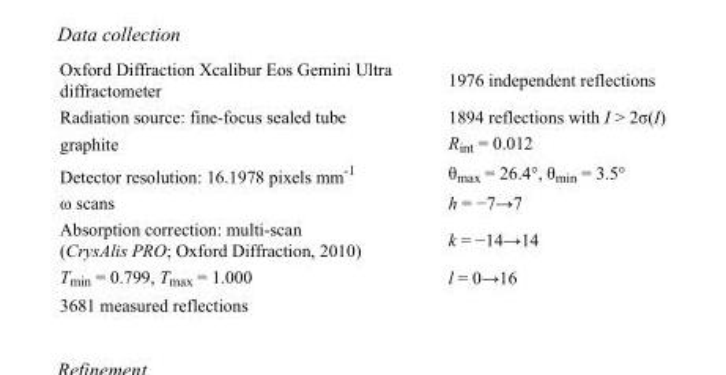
<table><tbody><tr><td>Oxford Diffraction Xcalibur Eos Gemini Ultra diffractometer</td><td>1976 independent reflections</td></tr><tr><td>Radiation source: fine-focus sealed tube</td><td>1894 reflections with I &gt; 2σ(I)</td></tr><tr><td>graphite</td><td>R<sub>int</sub> = 0.012</td></tr><tr><td>Detector resolution: 16.1978 pixels mm<sup>-1</sup></td><td>θ<sub>max</sub> = 26.4°, θ<sub>min</sub> = 3.5°</td></tr><tr><td>ω scans</td><td>h = −7→7</td></tr><tr><td>Absorption correction: multi-scan (CrysAlis PRO; Oxford Diffraction, 2010)</td><td>k = −14→14</td></tr><tr><td>T<sub>min</sub> = 0.799, T<sub>max</sub> = 1.000</td><td>l = 0→16</td></tr><tr><td>3681 measured reflections</td><td></td></tr></tbody></table>